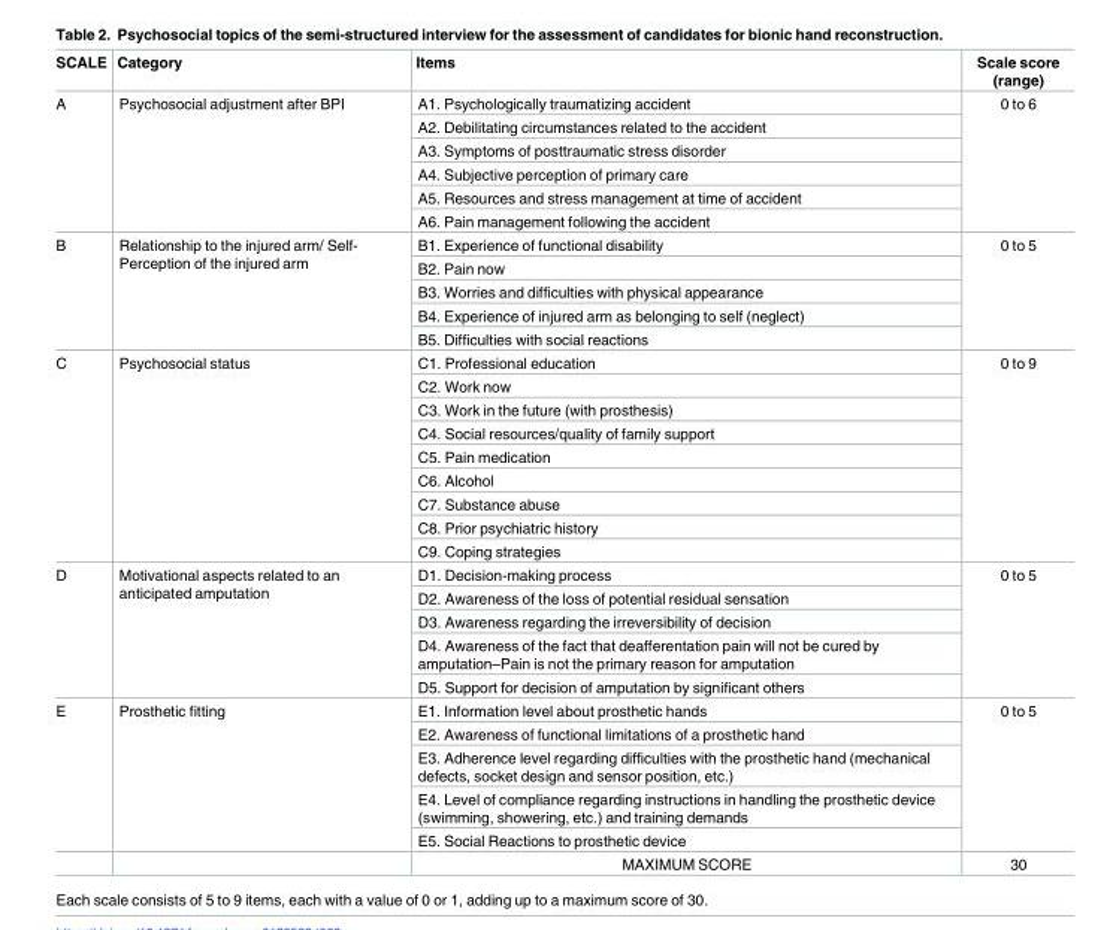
<table><thead><tr><td>SCALE</td><td>Category</td><td>Items</td><td>Scale score (range)</td></tr></thead><tbody><tr><td rowspan="6">A</td><td rowspan="6">Psychosocial adjustment after BPI</td><td>A1. Psychologically traumatizing accident</td><td rowspan="6">0 to 6</td></tr><tr><td>A2. Debilitating circumstances related to the accident</td></tr><tr><td>A3. Symptoms of posttraumatic stress disorder</td></tr><tr><td>A4. Subjective perception of primary care</td></tr><tr><td>A5. Resources and stress management at time of accident</td></tr><tr><td>A6. Pain management following the accident</td></tr><tr><td rowspan="5">B</td><td rowspan="5">Relationship to the injured arm/ Self- Perception of the injured arm</td><td>B1. Experience of functional disability</td><td rowspan="5">0 to 5</td></tr><tr><td>B2. Pain now</td></tr><tr><td>B3. Worries and difficulties with physical appearance</td></tr><tr><td>B4. Experience of injured arm as belonging to self (neglect)</td></tr><tr><td>B5. Difficulties with social reactions</td></tr><tr><td rowspan="9">C</td><td rowspan="9">Psychosocial status</td><td>C1. Professional education</td><td rowspan="9">0 to 9</td></tr><tr><td>C2. Work now</td></tr><tr><td>C3. Work in the future (with prosthesis)</td></tr><tr><td>C4. Social resources/quality of family support</td></tr><tr><td>C5. Pain medication</td></tr><tr><td>C6. Alcohol</td></tr><tr><td>C7. Substance abuse</td></tr><tr><td>C8. Prior psychiatric history</td></tr><tr><td>C9. Coping strategies</td></tr><tr><td rowspan="5">D</td><td rowspan="5">Motivational aspects related to an anticipated amputation</td><td>D1. Decision-making process</td><td rowspan="5">0 to 5</td></tr><tr><td>D2. Awareness of the loss of potential residual sensation</td></tr><tr><td>D3. Awareness regarding the irreversibility of decision</td></tr><tr><td>D4. Awareness of the fact that deafferentation pain will not be cured by amputation–Pain is not the primary reason for amputation</td></tr><tr><td>D5. Support for decision of amputation by significant others</td></tr><tr><td rowspan="6">E</td><td rowspan="5">Prosthetic fitting</td><td>E1. Information level about prosthetic hands</td><td rowspan="5">0 to 5</td></tr><tr><td>E2. Awareness of functional limitations of a prosthetic hand</td></tr><tr><td>E3. Adherence level regarding difficulties with the prosthetic hand (mechanical defects, socket design and sensor position, etc.)</td></tr><tr><td>E4. Level of compliance regarding instructions in handling the prosthetic device (swimming, showering, etc.) and training demands</td></tr><tr><td>E5. Social Reactions to prosthetic device</td></tr><tr><td></td><td>MAXIMUM SCORE</td><td>30</td></tr></tbody></table>